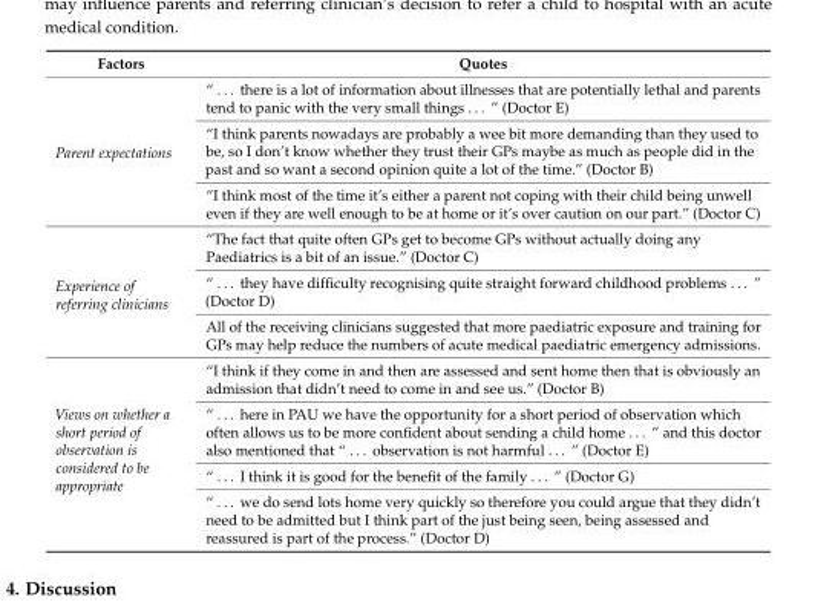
<table><thead><tr><td>Factors</td><td>Quotes</td></tr></thead><tbody><tr><td rowspan="3">Parent expectations</td><td>“ . . . there is a lot of information about illnesses that are potentially lethal and parents tend to panic with the very small things . . . ” (Doctor E)</td></tr><tr><td>“I think parents nowadays are probably a wee bit more demanding than they used to be, so I don’t know whether they trust their GPs maybe as much as people did in the past and so want a second opinion quite a lot of the time.” (Doctor B)</td></tr><tr><td>“I think most of the time it’s either a parent not coping with their child being unwell even if they are well enough to be at home or it’s over caution on our part.” (Doctor C)</td></tr><tr><td rowspan="3">Experience of referring clinicians</td><td>“The fact that quite often GPs get to become GPs without actually doing any Paediatrics is a bit of an issue.” (Doctor C)</td></tr><tr><td>“ . . . they have difficulty recognising quite straight forward childhood problems . . . ” (Doctor D)</td></tr><tr><td>All of the receiving clinicians suggested that more paediatric exposure and training for GPs may help reduce the numbers of acute medical paediatric emergency admissions.</td></tr><tr><td rowspan="4">Views on whether a short period of observation is considered to be appropriate</td><td>“I think if they come in and then are assessed and sent home then that is obviously an admission that didn’t need to come in and see us.” (Doctor B)</td></tr><tr><td>“ . . . here in PAU we have the opportunity for a short period of observation which often allows us to be more confident about sending a child home . . . ” and this doctor also mentioned that “ . . . observation is not harmful . . . ” (Doctor E)</td></tr><tr><td>“ . . . I think it is good for the benefit of the family . . . ” (Doctor G)</td></tr><tr><td>“ . . . we do send lots home very quickly so therefore you could argue that they didn’t need to be admitted but I think part of the just being seen, being assessed and reassured is part of the process.” (Doctor D)</td></tr></tbody></table>